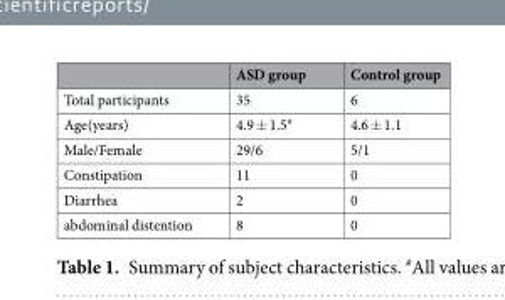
<table><thead><tr><td></td><td>ASD group</td><td>Control group</td></tr></thead><tbody><tr><td>Total participants</td><td>35</td><td>6</td></tr><tr><td>Age(years)</td><td>4.9 ± 1.5<sup>#</sup></td><td>4.6 ± 1.1</td></tr><tr><td>Male/Female</td><td>29/6</td><td>5/1</td></tr><tr><td>Constipation</td><td>11</td><td>0</td></tr><tr><td>Diarrhea</td><td>2</td><td>0</td></tr><tr><td>abdominal distention</td><td>8</td><td>0</td></tr></tbody></table>